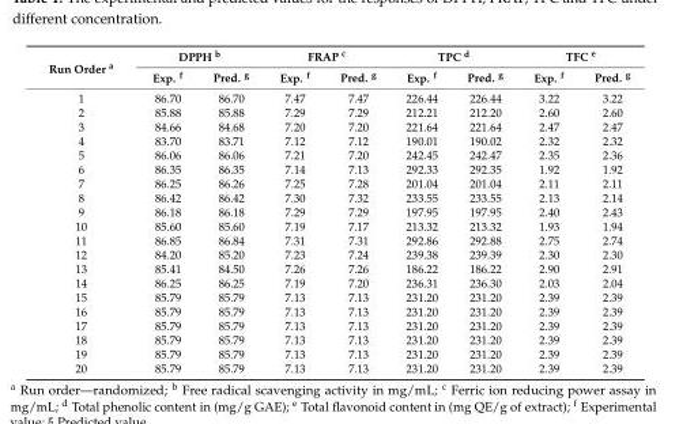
<table><thead><tr><td rowspan="2">Run Order <sup>a</sup></td><td colspan="2">DPPH <sup>b</sup></td><td colspan="2">FRAP <sup>c</sup></td><td colspan="2">TPC <sup>d</sup></td><td colspan="2">TFC <sup>e</sup></td></tr><tr><td>Exp. <sup>f</sup></td><td>Pred. <sup>g</sup></td><td>Exp. <sup>f</sup></td><td>Pred. <sup>g</sup></td><td>Exp. <sup>f</sup></td><td>Pred. <sup>g</sup></td><td>Exp. <sup>f</sup></td><td>Pred. <sup>g</sup></td></tr></thead><tbody><tr><td>1</td><td>86.70</td><td>86.70</td><td>7.47</td><td>7.47</td><td>226.44</td><td>226.44</td><td>3.22</td><td>3.22</td></tr><tr><td>2</td><td>85.88</td><td>85.88</td><td>7.29</td><td>7.29</td><td>212.21</td><td>212.20</td><td>2.60</td><td>2.60</td></tr><tr><td>3</td><td>84.66</td><td>84.68</td><td>7.20</td><td>7.20</td><td>221.64</td><td>221.64</td><td>2.47</td><td>2.47</td></tr><tr><td>4</td><td>83.70</td><td>83.71</td><td>7.12</td><td>7.12</td><td>190.01</td><td>190.02</td><td>2.32</td><td>2.32</td></tr><tr><td>5</td><td>86.06</td><td>86.06</td><td>7.21</td><td>7.20</td><td>242.45</td><td>242.47</td><td>2.35</td><td>2.36</td></tr><tr><td>6</td><td>86.35</td><td>86.35</td><td>7.14</td><td>7.13</td><td>292.33</td><td>292.35</td><td>1.92</td><td>1.92</td></tr><tr><td>7</td><td>86.25</td><td>86.26</td><td>7.25</td><td>7.28</td><td>201.04</td><td>201.04</td><td>2.11</td><td>2.11</td></tr><tr><td>8</td><td>86.42</td><td>86.42</td><td>7.30</td><td>7.32</td><td>233.55</td><td>233.55</td><td>2.13</td><td>2.14</td></tr><tr><td>9</td><td>86.18</td><td>86.18</td><td>7.29</td><td>7.29</td><td>197.95</td><td>197.95</td><td>2.40</td><td>2.43</td></tr><tr><td>10</td><td>85.60</td><td>85.60</td><td>7.19</td><td>7.17</td><td>213.32</td><td>213.32</td><td>1.93</td><td>1.94</td></tr><tr><td>11</td><td>86.85</td><td>86.84</td><td>7.31</td><td>7.31</td><td>292.86</td><td>292.88</td><td>2.75</td><td>2.74</td></tr><tr><td>12</td><td>84.20</td><td>85.20</td><td>7.23</td><td>7.24</td><td>239.38</td><td>239.39</td><td>2.30</td><td>2.30</td></tr><tr><td>13</td><td>85.41</td><td>84.50</td><td>7.26</td><td>7.26</td><td>186.22</td><td>186.22</td><td>2.90</td><td>2.91</td></tr><tr><td>14</td><td>86.25</td><td>86.25</td><td>7.19</td><td>7.20</td><td>236.31</td><td>236.30</td><td>2.03</td><td>2.04</td></tr><tr><td>15</td><td>85.79</td><td>85.79</td><td>7.13</td><td>7.13</td><td>231.20</td><td>231.20</td><td>2.39</td><td>2.39</td></tr><tr><td>16</td><td>85.79</td><td>85.79</td><td>7.13</td><td>7.13</td><td>231.20</td><td>231.20</td><td>2.39</td><td>2.39</td></tr><tr><td>17</td><td>85.79</td><td>85.79</td><td>7.13</td><td>7.13</td><td>231.20</td><td>231.20</td><td>2.39</td><td>2.39</td></tr><tr><td>18</td><td>85.79</td><td>85.79</td><td>7.13</td><td>7.13</td><td>231.20</td><td>231.20</td><td>2.39</td><td>2.39</td></tr><tr><td>19</td><td>85.79</td><td>85.79</td><td>7.13</td><td>7.13</td><td>231.20</td><td>231.20</td><td>2.39</td><td>2.39</td></tr><tr><td>20</td><td>85.79</td><td>85.79</td><td>7.13</td><td>7.13</td><td>231.20</td><td>231.20</td><td>2.39</td><td>2.39</td></tr></tbody></table>